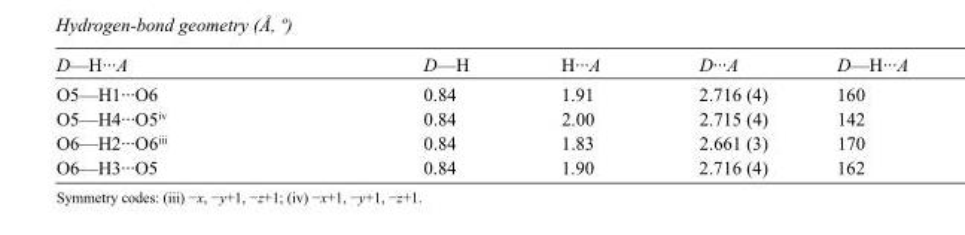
<table><tbody><tr><td>D—H···A</td><td>D—H</td><td>H···A</td><td>D···A</td><td>D—H···A</td></tr><tr><td>O5—H1···O6</td><td>0.84</td><td>1.91</td><td>2.716 (4)</td><td>160</td></tr><tr><td>O5—H4···O5<sup>iv</sup></td><td>0.84</td><td>2.00</td><td>2.715 (4)</td><td>142</td></tr><tr><td>O6—H2···O6<sup>iii</sup></td><td>0.84</td><td>1.83</td><td>2.661 (3)</td><td>170</td></tr><tr><td>O6—H3···O5</td><td>0.84</td><td>1.90</td><td>2.716 (4)</td><td>162</td></tr></tbody></table>